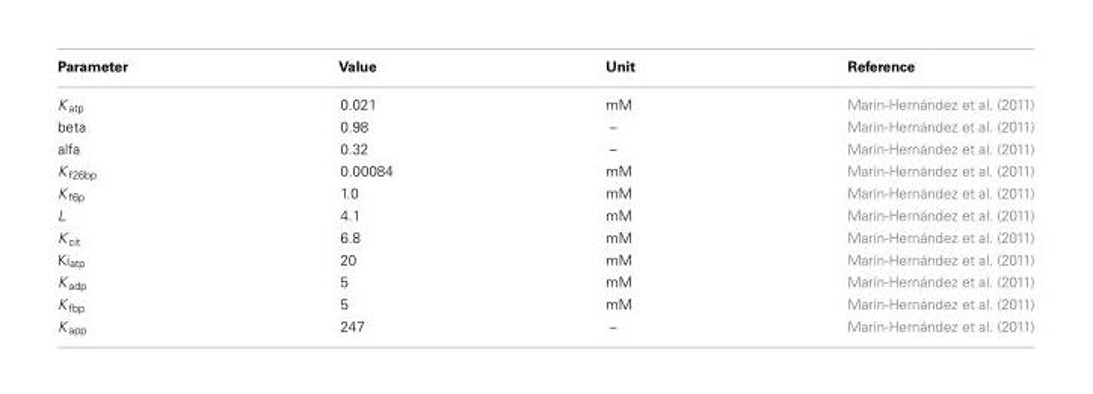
<table><thead><tr><td>Parameter</td><td>Value</td><td>Unit</td><td>Reference</td></tr></thead><tbody><tr><td>K <sub>atp</sub></td><td>0.021</td><td>mM</td><td>Marín-Hernández et al. (2011)</td></tr><tr><td>beta</td><td>0.98</td><td>–</td><td>Marín-Hernández et al. (2011)</td></tr><tr><td>alfa</td><td>0.32</td><td>–</td><td>Marín-Hernández et al. (2011)</td></tr><tr><td>K <sub>f26bp</sub></td><td>0.00084</td><td>mM</td><td>Marín-Hernández et al. (2011)</td></tr><tr><td>K <sub>f6p</sub></td><td>1.0</td><td>mM</td><td>Marín-Hernández et al. (2011)</td></tr><tr><td>L</td><td>4.1</td><td>mM</td><td>Marín-Hernández et al. (2011)</td></tr><tr><td>K <sub>cit</sub></td><td>6.8</td><td>mM</td><td>Marín-Hernández et al. (2011)</td></tr><tr><td>Ki<sub>atp</sub></td><td>20</td><td>mM</td><td>Marín-Hernández et al. (2011)</td></tr><tr><td>K <sub>adp</sub></td><td>5</td><td>mM</td><td>Marín-Hernández et al. (2011)</td></tr><tr><td>K <sub>fbp</sub></td><td>5</td><td>mM</td><td>Marín-Hernández et al. (2011)</td></tr><tr><td>K <sub>app</sub></td><td>247</td><td>–</td><td>Marín-Hernández et al. (2011)</td></tr></tbody></table>